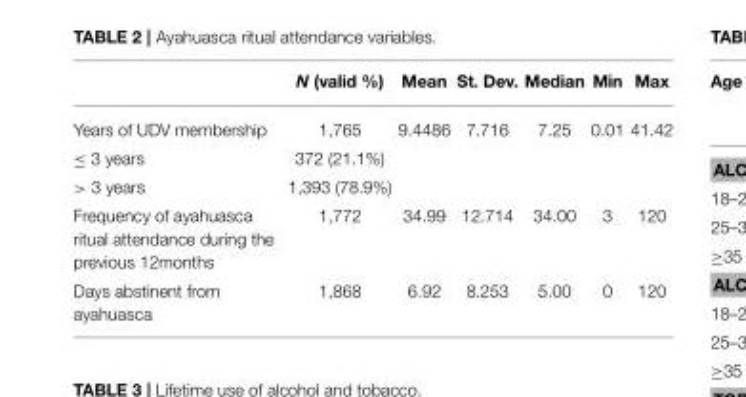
<table><thead><tr><td></td><td>N (valid %)</td><td>Mean</td><td>St. Dev.</td><td>Median</td><td>Min</td><td>Max</td></tr></thead><tbody><tr><td>Years of UDV membership</td><td>1,765</td><td>9.4486</td><td>7.716</td><td>7.25</td><td>0.01</td><td>41.42</td></tr><tr><td>≤ 3 years</td><td>372 (21.1%)</td><td></td><td></td><td></td><td></td><td></td></tr><tr><td>&gt; 3 years</td><td>1,393 (78.9%)</td><td></td><td></td><td></td><td></td><td></td></tr><tr><td>Frequency of ayahuasca ritual attendance during the previous 12months</td><td>1,772</td><td>34.99</td><td>12.714</td><td>34.00</td><td>3</td><td>120</td></tr><tr><td>Days abstinent from ayahuasca</td><td>1,868</td><td>6.92</td><td>8.253</td><td>5.00</td><td>0</td><td>120</td></tr></tbody></table>